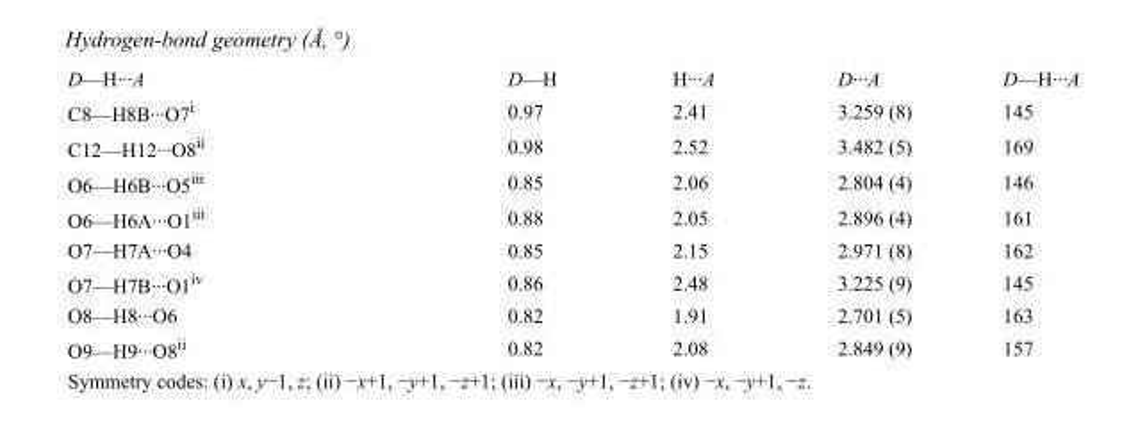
<table><tbody><tr><td>D—H···A</td><td>D—H</td><td>H···A</td><td>D···A</td><td>D—H···A</td></tr><tr><td>C8—H8B···O7<sup>i</sup></td><td>0.97</td><td>2.41</td><td>3.259 (8)</td><td>145</td></tr><tr><td>C12—H12···O8<sup>ii</sup></td><td>0.98</td><td>2.52</td><td>3.482 (5)</td><td>169</td></tr><tr><td>O6—H6B···O5<sup>iii</sup></td><td>0.85</td><td>2.06</td><td>2.804 (4)</td><td>146</td></tr><tr><td>O6—H6A···O1<sup>iii</sup></td><td>0.88</td><td>2.05</td><td>2.896 (4)</td><td>161</td></tr><tr><td>O7—H7A···O4</td><td>0.85</td><td>2.15</td><td>2.971 (8)</td><td>162</td></tr><tr><td>O7—H7B···O1<sup>iv</sup></td><td>0.86</td><td>2.48</td><td>3.225 (9)</td><td>145</td></tr><tr><td>O8—H8···O6</td><td>0.82</td><td>1.91</td><td>2.701 (5)</td><td>163</td></tr><tr><td>O9—H9···O8<sup>ii</sup></td><td>0.82</td><td>2.08</td><td>2.849 (9)</td><td>157</td></tr></tbody></table>